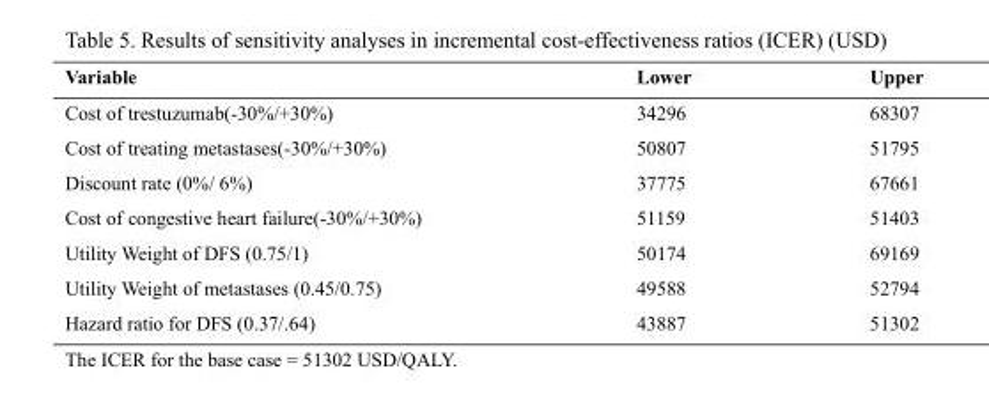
<table><thead><tr><td>Variable</td><td>Lower</td><td>Upper</td></tr></thead><tbody><tr><td>Cost of trestuzumab(-30%/+30%)</td><td>34296</td><td>68307</td></tr><tr><td>Cost of treating metastases(-30%/+30%)</td><td>50807</td><td>51795</td></tr><tr><td>Discount rate (0%/ 6%)</td><td>37775</td><td>67661</td></tr><tr><td>Cost of congestive heart failure(-30%/+30%)</td><td>51159</td><td>51403</td></tr><tr><td>Utility Weight of DFS (0.75/1)</td><td>50174</td><td>69169</td></tr><tr><td>Utility Weight of metastases (0.45/0.75)</td><td>49588</td><td>52794</td></tr><tr><td>Hazard ratio for DFS (0.37/.64)</td><td>43887</td><td>51302</td></tr></tbody></table>